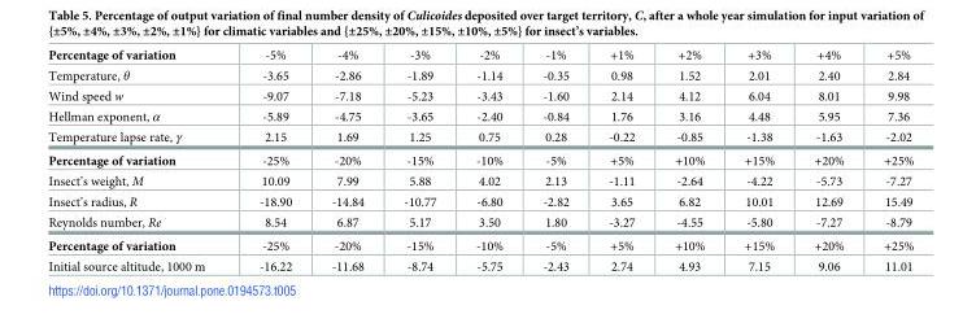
<table><tbody><tr><td>Percentage of variation</td><td>-5%</td><td>-4%</td><td>-3%</td><td>-2%</td><td>-1%</td><td>+1%</td><td>+2%</td><td>+3%</td><td>+4%</td><td>+5%</td></tr><tr><td>Temperature, θ</td><td>-3.65</td><td>-2.86</td><td>-1.89</td><td>-1.14</td><td>-0.35</td><td>0.98</td><td>1.52</td><td>2.01</td><td>2.40</td><td>2.84</td></tr><tr><td>Wind speed w</td><td>-9.07</td><td>-7.18</td><td>-5.23</td><td>-3.43</td><td>-1.60</td><td>2.14</td><td>4.12</td><td>6.04</td><td>8.01</td><td>9.98</td></tr><tr><td>Hellman exponent, α</td><td>-5.89</td><td>-4.75</td><td>-3.65</td><td>-2.40</td><td>-0.84</td><td>1.76</td><td>3.16</td><td>4.48</td><td>5.95</td><td>7.36</td></tr><tr><td>Temperature lapse rate, γ</td><td>2.15</td><td>1.69</td><td>1.25</td><td>0.75</td><td>0.28</td><td>-0.22</td><td>-0.85</td><td>-1.38</td><td>-1.63</td><td>-2.02</td></tr><tr><td>Percentage of variation</td><td>-25%</td><td>-20%</td><td>-15%</td><td>-10%</td><td>-5%</td><td>+5%</td><td>+10%</td><td>+15%</td><td>+20%</td><td>+25%</td></tr><tr><td>Insect’s weight, M</td><td>10.09</td><td>7.99</td><td>5.88</td><td>4.02</td><td>2.13</td><td>-1.11</td><td>-2.64</td><td>-4.22</td><td>-5.73</td><td>-7.27</td></tr><tr><td>Insect’s radius, R</td><td>-18.90</td><td>-14.84</td><td>-10.77</td><td>-6.80</td><td>-2.82</td><td>3.65</td><td>6.82</td><td>10.01</td><td>12.69</td><td>15.49</td></tr><tr><td>Reynolds number, Re</td><td>8.54</td><td>6.87</td><td>5.17</td><td>3.50</td><td>1.80</td><td>-3.27</td><td>-4.55</td><td>-5.80</td><td>-7.27</td><td>-8.79</td></tr><tr><td>Percentage of variation</td><td>-25%</td><td>-20%</td><td>-15%</td><td>-10%</td><td>-5%</td><td>+5%</td><td>+10%</td><td>+15%</td><td>+20%</td><td>+25%</td></tr><tr><td>Initial source altitude, 1000 m</td><td>-16.22</td><td>-11.68</td><td>-8.74</td><td>-5.75</td><td>-2.43</td><td>2.74</td><td>4.93</td><td>7.15</td><td>9.06</td><td>11.01</td></tr></tbody></table>